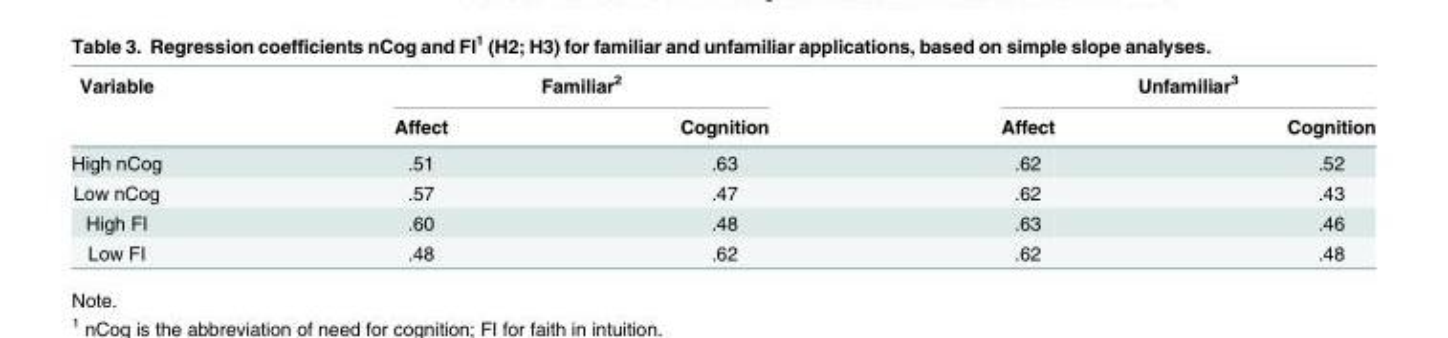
<table><thead><tr><td rowspan="2">Variable</td><td colspan="2">Familiar<sup>2</sup></td><td colspan="2">Unfamiliar<sup>3</sup></td></tr><tr><td>Affect</td><td>Cognition</td><td>Affect</td><td>Cognition</td></tr></thead><tbody><tr><td>High nCog</td><td>.51</td><td>.63</td><td>.62</td><td>.52</td></tr><tr><td>Low nCog</td><td>.57</td><td>.47</td><td>.62</td><td>.43</td></tr><tr><td>High FI</td><td>.60</td><td>.48</td><td>.63</td><td>.46</td></tr><tr><td>Low FI</td><td>.48</td><td>.62</td><td>.62</td><td>.48</td></tr></tbody></table>